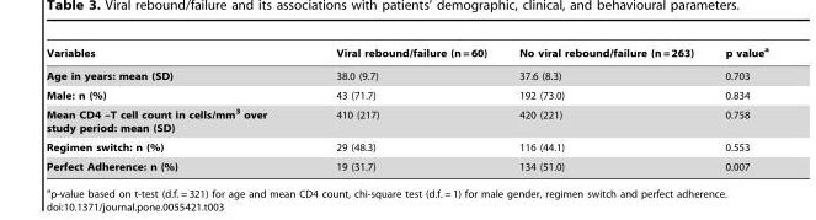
<table><thead><tr><td>Variables</td><td>Viral rebound/failure (n = 60)</td><td>No viral rebound/failure (n = 263)</td><td>p value<sup>a</sup></td></tr></thead><tbody><tr><td>Age in years: mean (SD)</td><td>38.0 (9.7)</td><td>37.6 (8.3)</td><td>0.703</td></tr><tr><td>Male: n (%)</td><td>43 (71.7)</td><td>192 (73.0)</td><td>0.834</td></tr><tr><td>Mean CD4 –T cell count in cells/mm<sup>3</sup> over study period: mean (SD)</td><td>410 (217)</td><td>420 (221)</td><td>0.758</td></tr><tr><td>Regimen switch: n (%)</td><td>29 (48.3)</td><td>116 (44.1)</td><td>0.553</td></tr><tr><td>Perfect Adherence: n (%)</td><td>19 (31.7)</td><td>134 (51.0)</td><td>0.007</td></tr></tbody></table>